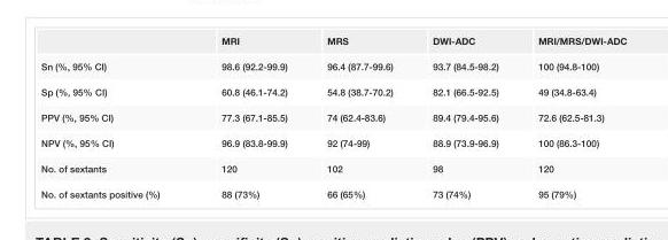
<table><thead><tr><td></td><td>MRI</td><td>MRS</td><td>DWI-ADC</td><td>MRI/MRS/DWI-ADC</td></tr></thead><tbody><tr><td>Sn (%, 95% CI)</td><td>98.6 (92.2-99.9)</td><td>96.4 (87.7-99.6)</td><td>93.7 (84.5-98.2)</td><td>100 (94.8-100)</td></tr><tr><td>Sp (%, 95% CI)</td><td>60.8 (46.1-74.2)</td><td>54.8 (38.7-70.2)</td><td>82.1 (66.5-92.5)</td><td>49 (34.8-63.4)</td></tr><tr><td>PPV (%, 95% CI)</td><td>77.3 (67.1-85.5)</td><td>74 (62.4-83.6)</td><td>89.4 (79.4-95.6)</td><td>72.6 (62.5-81.3)</td></tr><tr><td>NPV (%, 95% CI)</td><td>96.9 (83.8-99.9)</td><td>92 (74-99)</td><td>88.9 (73.9-96.9)</td><td>100 (86.3-100)</td></tr><tr><td>No. of sextants</td><td>120</td><td>102</td><td>98</td><td>120</td></tr><tr><td>No. of sextants positive (%)</td><td>88 (73%)</td><td>66 (65%)</td><td>73 (74%)</td><td>95 (79%)</td></tr></tbody></table>